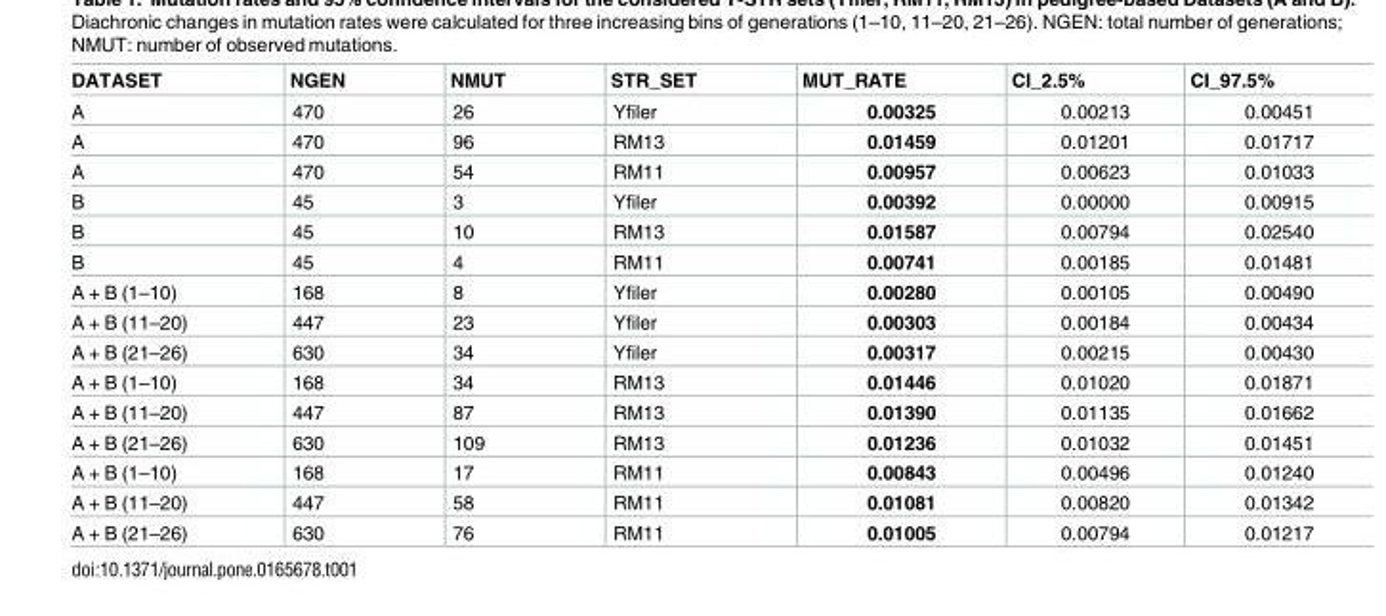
<table><thead><tr><td>DATASET</td><td>NGEN</td><td>NMUT</td><td>STR_SET</td><td>MUT_RATE</td><td>CI_2.5%</td><td>CI_97.5%</td></tr></thead><tbody><tr><td>A</td><td>470</td><td>26</td><td>Yfiler</td><td>0.00325</td><td>0.00213</td><td>0.00451</td></tr><tr><td>A</td><td>470</td><td>96</td><td>RM13</td><td>0.01459</td><td>0.01201</td><td>0.01717</td></tr><tr><td>A</td><td>470</td><td>54</td><td>RM11</td><td>0.00957</td><td>0.00623</td><td>0.01033</td></tr><tr><td>B</td><td>45</td><td>3</td><td>Yfiler</td><td>0.00392</td><td>0.00000</td><td>0.00915</td></tr><tr><td>B</td><td>45</td><td>10</td><td>RM13</td><td>0.01587</td><td>0.00794</td><td>0.02540</td></tr><tr><td>B</td><td>45</td><td>4</td><td>RM11</td><td>0.00741</td><td>0.00185</td><td>0.01481</td></tr><tr><td>A + B (1–10)</td><td>168</td><td>8</td><td>Yfiler</td><td>0.00280</td><td>0.00105</td><td>0.00490</td></tr><tr><td>A + B (11–20)</td><td>447</td><td>23</td><td>Yfiler</td><td>0.00303</td><td>0.00184</td><td>0.00434</td></tr><tr><td>A + B (21–26)</td><td>630</td><td>34</td><td>Yfiler</td><td>0.00317</td><td>0.00215</td><td>0.00430</td></tr><tr><td>A + B (1–10)</td><td>168</td><td>34</td><td>RM13</td><td>0.01446</td><td>0.01020</td><td>0.01871</td></tr><tr><td>A + B (11–20)</td><td>447</td><td>87</td><td>RM13</td><td>0.01390</td><td>0.01135</td><td>0.01662</td></tr><tr><td>A + B (21–26)</td><td>630</td><td>109</td><td>RM13</td><td>0.01236</td><td>0.01032</td><td>0.01451</td></tr><tr><td>A + B (1–10)</td><td>168</td><td>17</td><td>RM11</td><td>0.00843</td><td>0.00496</td><td>0.01240</td></tr><tr><td>A + B (11–20)</td><td>447</td><td>58</td><td>RM11</td><td>0.01081</td><td>0.00820</td><td>0.01342</td></tr><tr><td>A + B (21–26)</td><td>630</td><td>76</td><td>RM11</td><td>0.01005</td><td>0.00794</td><td>0.01217</td></tr></tbody></table>